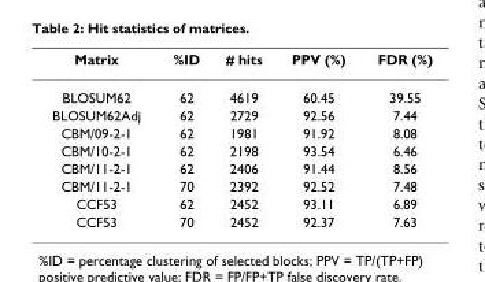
<table><thead><tr><td>Matrix</td><td>%ID</td><td># hits</td><td>PPV (%)</td><td>FDR (%)</td></tr></thead><tbody><tr><td>BLOSUM62</td><td>62</td><td>4619</td><td>60.45</td><td>39.55</td></tr><tr><td>BLOSUM62Adj</td><td>62</td><td>2729</td><td>92.56</td><td>7.44</td></tr><tr><td>CBM/09-2-1</td><td>62</td><td>1981</td><td>91.92</td><td>8.08</td></tr><tr><td>CBM/10-2-1</td><td>62</td><td>2198</td><td>93.54</td><td>6.46</td></tr><tr><td>CBM/11-2-1</td><td>62</td><td>2406</td><td>91.44</td><td>8.56</td></tr><tr><td>CBM/11-2-1</td><td>70</td><td>2392</td><td>92.52</td><td>7.48</td></tr><tr><td>CCF53</td><td>62</td><td>2452</td><td>93.11</td><td>6.89</td></tr><tr><td>CCF53</td><td>70</td><td>2452</td><td>92.37</td><td>7.63</td></tr></tbody></table>